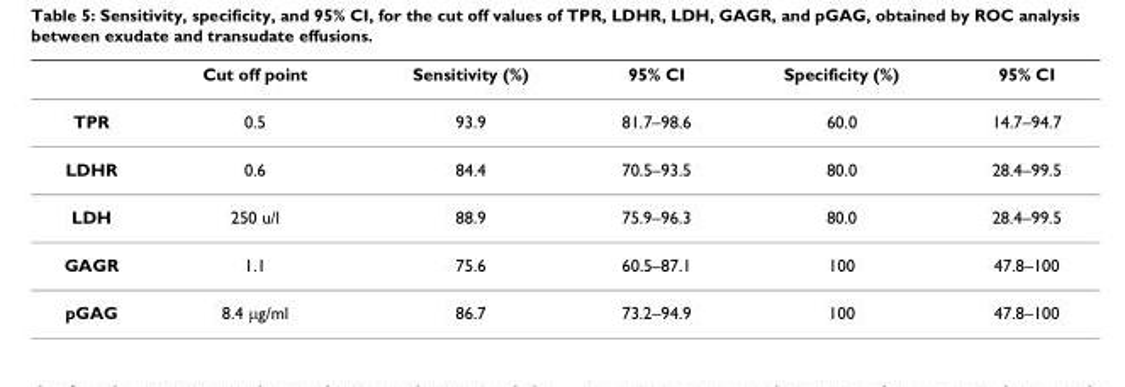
<table><thead><tr><td></td><td>Cut off point</td><td>Sensitivity (%)</td><td>95% CI</td><td>Specificity (%)</td><td>95% CI</td></tr></thead><tbody><tr><td>TPR</td><td>0.5</td><td>93.9</td><td>81.7–98.6</td><td>60.0</td><td>14.7–94.7</td></tr><tr><td>LDHR</td><td>0.6</td><td>84.4</td><td>70.5–93.5</td><td>80.0</td><td>28.4–99.5</td></tr><tr><td>LDH</td><td>250 u/l</td><td>88.9</td><td>75.9–96.3</td><td>80.0</td><td>28.4–99.5</td></tr><tr><td>GAGR</td><td>1.1</td><td>75.6</td><td>60.5–87.1</td><td>100</td><td>47.8–100</td></tr><tr><td>pGAG</td><td>8.4 μg/ml</td><td>86.7</td><td>73.2–94.9</td><td>100</td><td>47.8–100</td></tr></tbody></table>